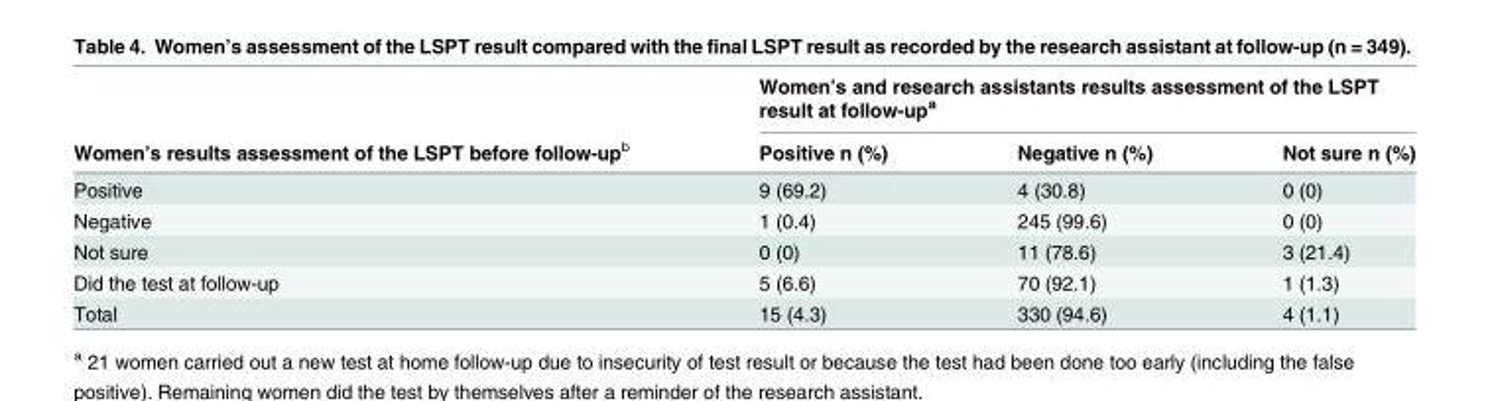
<table><thead><tr><td rowspan="2">Women’s results assessment of the LSPT before follow-up<sup>b</sup></td><td colspan="3">Women’s and research assistants results assessment of the LSPT result at follow-up<sup>a</sup></td></tr><tr><td>Positive n (%)</td><td>Negative n (%)</td><td>Not sure n (%)</td></tr></thead><tbody><tr><td>Positive</td><td>9 (69.2)</td><td>4 (30.8)</td><td>0 (0)</td></tr><tr><td>Negative</td><td>1 (0.4)</td><td>245 (99.6)</td><td>0 (0)</td></tr><tr><td>Not sure</td><td>0 (0)</td><td>11 (78.6)</td><td>3 (21.4)</td></tr><tr><td>Did the test at follow-up</td><td>5 (6.6)</td><td>70 (92.1)</td><td>1 (1.3)</td></tr><tr><td>Total</td><td>15 (4.3)</td><td>330 (94.6)</td><td>4 (1.1)</td></tr></tbody></table>